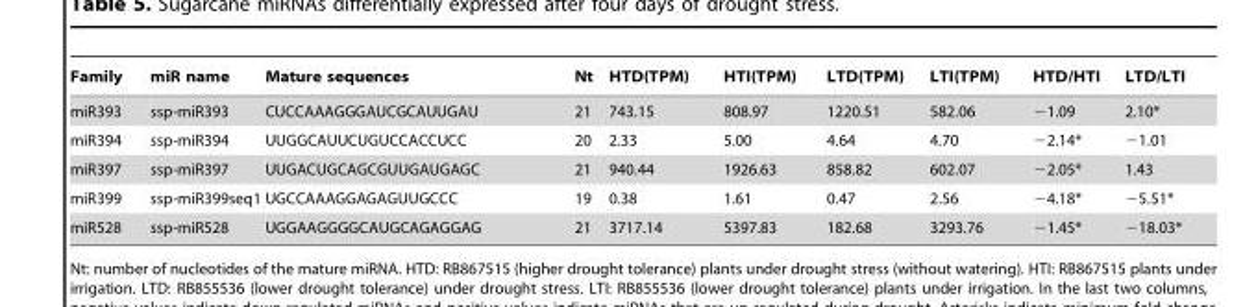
<table><thead><tr><td>Family</td><td>miR name</td><td>Mature sequences</td><td>Nt</td><td>HTD(TPM)</td><td>HTI(TPM)</td><td>LTD(TPM)</td><td>LTI(TPM)</td><td>HTD/HTI</td><td>LTD/LTI</td></tr></thead><tbody><tr><td>miR393</td><td>ssp-miR393</td><td>CUCCAAAGGGAUCGCAUUGAU</td><td>21</td><td>743.15</td><td>808.97</td><td>1220.51</td><td>582.06</td><td>−1.09</td><td>2.10*</td></tr><tr><td>miR394</td><td>ssp-miR394</td><td>UUGGCAUUCUGUCCACCUCC</td><td>20</td><td>2.33</td><td>5.00</td><td>4.64</td><td>4.70</td><td>−2.14*</td><td>−1.01</td></tr><tr><td>miR397</td><td>ssp-miR397</td><td>UUGACUGCAGCGUUGAUGAGC</td><td>21</td><td>940.44</td><td>1926.63</td><td>858.82</td><td>602.07</td><td>−2.05*</td><td>1.43</td></tr><tr><td>miR399</td><td>ssp-miR399seq1</td><td>UGCCAAAGGAGAGUUGCCC</td><td>19</td><td>0.38</td><td>1.61</td><td>0.47</td><td>2.56</td><td>−4.18*</td><td>−5.51*</td></tr><tr><td>miR528</td><td>ssp-miR528</td><td>UGGAAGGGGCAUGCAGAGGAG</td><td>21</td><td>3717.14</td><td>5397.83</td><td>182.68</td><td>3293.76</td><td>−1.45*</td><td>−18.03*</td></tr></tbody></table>